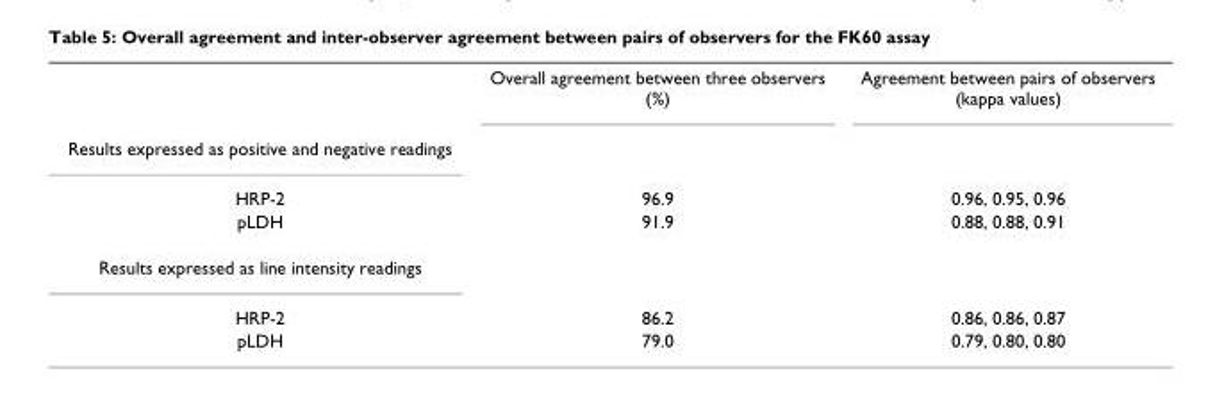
<table><thead><tr><td></td><td>Overall agreement between three observers (%)</td><td>Agreement between pairs of observers (kappa values)</td></tr></thead><tbody><tr><td colspan="3">Results expressed as positive and negative readings</td></tr><tr><td>HRP-2</td><td>96.9</td><td>0.96, 0.95, 0.96</td></tr><tr><td>pLDH</td><td>91.9</td><td>0.88, 0.88, 0.91</td></tr><tr><td colspan="3">Results expressed as line intensity readings</td></tr><tr><td>HRP-2</td><td>86.2</td><td>0.86, 0.86, 0.87</td></tr><tr><td>pLDH</td><td>79.0</td><td>0.79, 0.80, 0.80</td></tr></tbody></table>